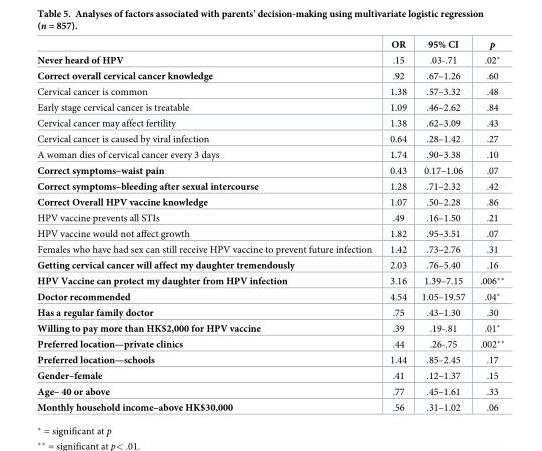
<table><thead><tr><td></td><td>OR</td><td>95% CI</td><td>p</td></tr></thead><tbody><tr><td>Never heard of HPV</td><td>.15</td><td>.03-.71</td><td>.02*</td></tr><tr><td>Correct overall cervical cancer knowledge</td><td>.92</td><td>.67–1.26</td><td>.60</td></tr><tr><td>Cervical cancer is common</td><td>1.38</td><td>.57–3.32</td><td>.48</td></tr><tr><td>Early stage cervical cancer is treatable</td><td>1.09</td><td>.46–2.62</td><td>.84</td></tr><tr><td>Cervical cancer may affect fertility</td><td>1.38</td><td>.62–3.09</td><td>.43</td></tr><tr><td>Cervical cancer is caused by viral infection</td><td>0.64</td><td>.28–1.42</td><td>.27</td></tr><tr><td>A woman dies of cervical cancer every 3 days</td><td>1.74</td><td>.90–3.38</td><td>.10</td></tr><tr><td>Correct symptoms–waist pain</td><td>0.43</td><td>0.17–1.06</td><td>.07</td></tr><tr><td>Correct symptoms–bleeding after sexual intercourse</td><td>1.28</td><td>.71–2.32</td><td>.42</td></tr><tr><td>Correct Overall HPV vaccine knowledge</td><td>1.07</td><td>.50–2.28</td><td>.86</td></tr><tr><td>HPV vaccine prevents all STIs</td><td>.49</td><td>.16–1.50</td><td>.21</td></tr><tr><td>HPV vaccine would not affect growth</td><td>1.82</td><td>.95–3.51</td><td>.07</td></tr><tr><td>Females who have had sex can still receive HPV vaccine to prevent future infection</td><td>1.42</td><td>.73–2.76</td><td>.31</td></tr><tr><td>Getting cervical cancer will affect my daughter tremendously</td><td>2.03</td><td>.76–5.40</td><td>.16</td></tr><tr><td>HPV Vaccine can protect my daughter from HPV infection</td><td>3.16</td><td>1.39–7.15</td><td>.006**</td></tr><tr><td>Doctor recommended</td><td>4.54</td><td>1.05–19.57</td><td>.04*</td></tr><tr><td>Has a regular family doctor</td><td>.75</td><td>.43–1.30</td><td>.30</td></tr><tr><td>Willing to pay more than HK$2,000 for HPV vaccine</td><td>.39</td><td>.19-.81</td><td>.01*</td></tr><tr><td>Preferred location—private clinics</td><td>.44</td><td>.26-.75</td><td>.002**</td></tr><tr><td>Preferred location—schools</td><td>1.44</td><td>.85–2.45</td><td>.17</td></tr><tr><td>Gender–female</td><td>.41</td><td>.12–1.37</td><td>.15</td></tr><tr><td>Age– 40 or above</td><td>.77</td><td>.45–1.61</td><td>.33</td></tr><tr><td>Monthly household income–above HK$30,000</td><td>.56</td><td>.31–1.02</td><td>.06</td></tr></tbody></table>